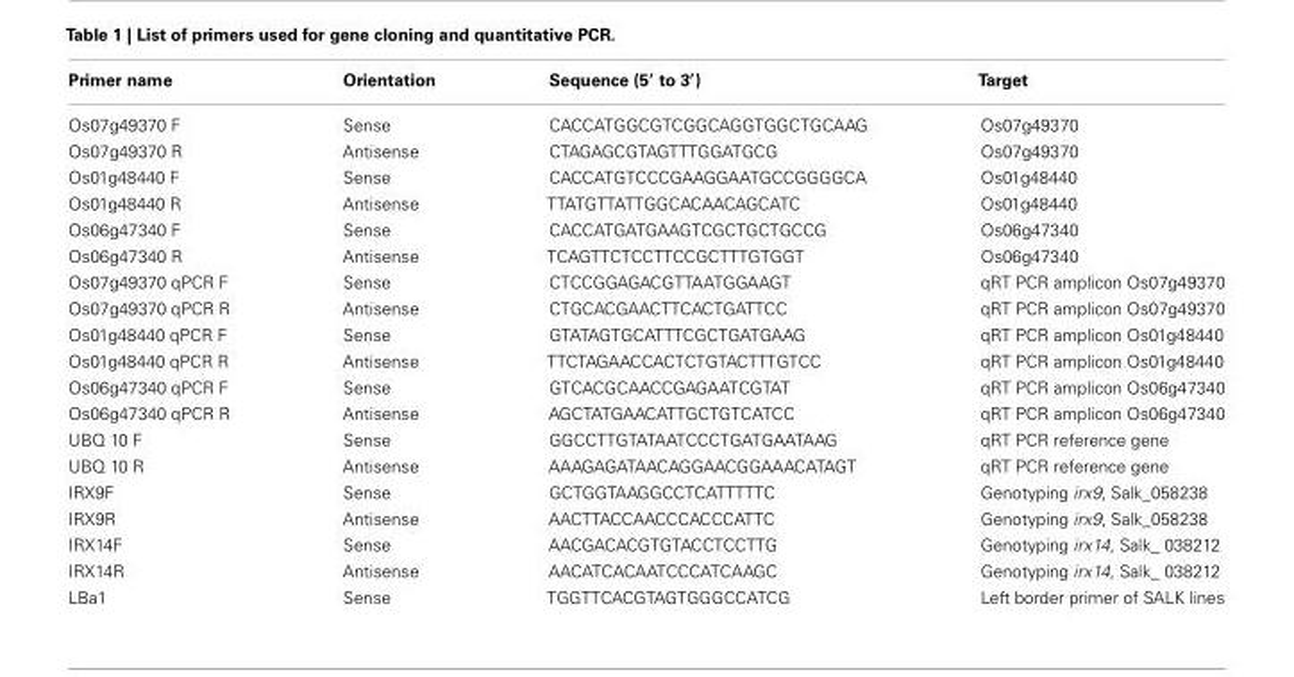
<table><thead><tr><td>Primer name</td><td>Orientation</td><td>Sequence (5′ to 3′)</td><td>Target</td></tr></thead><tbody><tr><td>Os07g49370 F</td><td>Sense</td><td>CACCATGGCGTCGGCAGGTGGCTGCAAG</td><td>Os07g49370</td></tr><tr><td>Os07g49370 R</td><td>Antisense</td><td>CTAGAGCGTAGTTTGGATGCG</td><td>Os07g49370</td></tr><tr><td>Os01g48440 F</td><td>Sense</td><td>CACCATGTCCCGAAGGAATGCCGGGGCA</td><td>Os01g48440</td></tr><tr><td>Os01g48440 R</td><td>Antisense</td><td>TTATGTTATTGGCACAACAGCATC</td><td>Os01g48440</td></tr><tr><td>Os06g47340 F</td><td>Sense</td><td>CACCATGATGAAGTCGCTGCTGCCG</td><td>Os06g47340</td></tr><tr><td>Os06g47340 R</td><td>Antisense</td><td>TCAGTTCTCCTTCCGCTTTGTGGT</td><td>Os06g47340</td></tr><tr><td>Os07g49370 qPCR F</td><td>Sense</td><td>CTCCGGAGACGTTAATGGAAGT</td><td>qRT PCR amplicon Os07g49370</td></tr><tr><td>Os07g49370 qPCR R</td><td>Antisense</td><td>CTGCACGAACTTCACTGATTCC</td><td>qRT PCR amplicon Os07g49370</td></tr><tr><td>Os01g48440 qPCR F</td><td>Sense</td><td>GTATAGTGCATTTCGCTGATGAAG</td><td>qRT PCR amplicon Os01g48440</td></tr><tr><td>Os01g48440 qPCR R</td><td>Antisense</td><td>TTCTAGAACCACTCTGTACTTTGTCC</td><td>qRT PCR amplicon Os01g48440</td></tr><tr><td>Os06g47340 qPCR F</td><td>Sense</td><td>GTCACGCAACCGAGAATCGTAT</td><td>qRT PCR amplicon Os06g47340</td></tr><tr><td>Os06g47340 qPCR R</td><td>Antisense</td><td>AGCTATGAACATTGCTGTCATCC</td><td>qRT PCR amplicon Os06g47340</td></tr><tr><td>UBQ 10 F</td><td>Sense</td><td>GGCCTTGTATAATCCCTGATGAATAAG</td><td>qRT PCR reference gene</td></tr><tr><td>UBQ 10 R</td><td>Antisense</td><td>AAAGAGATAACAGGAACGGAAACATAGT</td><td>qRT PCR reference gene</td></tr><tr><td>IRX9F</td><td>Sense</td><td>GCTGGTAAGGCCTCATTTTTC</td><td>Genotyping irx9, Salk_058238</td></tr><tr><td>IRX9R</td><td>Antisense</td><td>AACTTACCAACCCACCCATTC</td><td>Genotyping irx9, Salk_058238</td></tr><tr><td>IRX14F</td><td>Sense</td><td>AACGACACGTGTACCTCCTTG</td><td>Genotyping irx14, Salk_ 038212</td></tr><tr><td>IRX14R</td><td>Antisense</td><td>AACATCACAATCCCATCAAGC</td><td>Genotyping irx14, Salk_ 038212</td></tr><tr><td>LBa1</td><td>Sense</td><td>TGGTTCACGTAGTGGGCCATCG</td><td>Left border primer of SALK lines</td></tr></tbody></table>